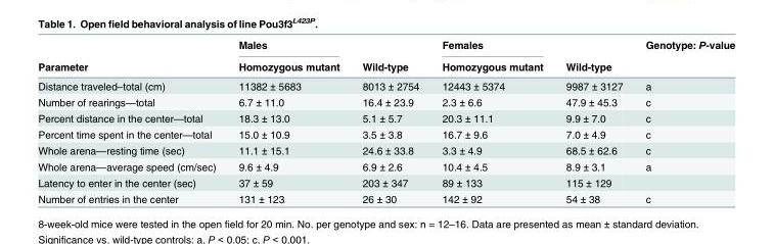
<table><thead><tr><td rowspan="2">Parameter</td><td rowspan="2">Males Homozygous mutant</td><td rowspan="2">Wild-type</td><td rowspan="2">Females Homozygous mutant</td><td rowspan="2">Wild-type</td><td rowspan="2">Genotype: P-value</td></tr><tr></tr></thead><tbody><tr><td>Distance traveled–total (cm)</td><td>11382 ± 5683</td><td>8013 ± 2754</td><td>12443 ± 5374</td><td>9987 ± 3127</td><td>a</td></tr><tr><td>Number of rearings—total</td><td>6.7 ± 11.0</td><td>16.4 ± 23.9</td><td>2.3 ± 6.6</td><td>47.9 ± 45.3</td><td>c</td></tr><tr><td>Percent distance in the center—total</td><td>18.3 ± 13.0</td><td>5.1 ± 5.7</td><td>20.3 ± 11.1</td><td>9.9 ± 7.0</td><td>c</td></tr><tr><td>Percent time spent in the center—total</td><td>15.0 ± 10.9</td><td>3.5 ± 3.8</td><td>16.7 ± 9.6</td><td>7.0 ± 4.9</td><td>c</td></tr><tr><td>Whole arena—resting time (sec)</td><td>11.1 ± 15.1</td><td>24.6 ± 33.8</td><td>3.3 ± 4.9</td><td>68.5 ± 62.6</td><td>c</td></tr><tr><td>Whole arena—average speed (cm/sec)</td><td>9.6 ± 4.9</td><td>6.9 ± 2.6</td><td>10.4 ± 4.5</td><td>8.9 ± 3.1</td><td>a</td></tr><tr><td>Latency to enter in the center (sec)</td><td>37 ± 59</td><td>203 ± 347</td><td>89 ± 133</td><td>115 ± 129</td><td></td></tr><tr><td>Number of entries in the center</td><td>131 ± 123</td><td>26 ± 30</td><td>142 ± 92</td><td>54 ± 38</td><td>c</td></tr></tbody></table>